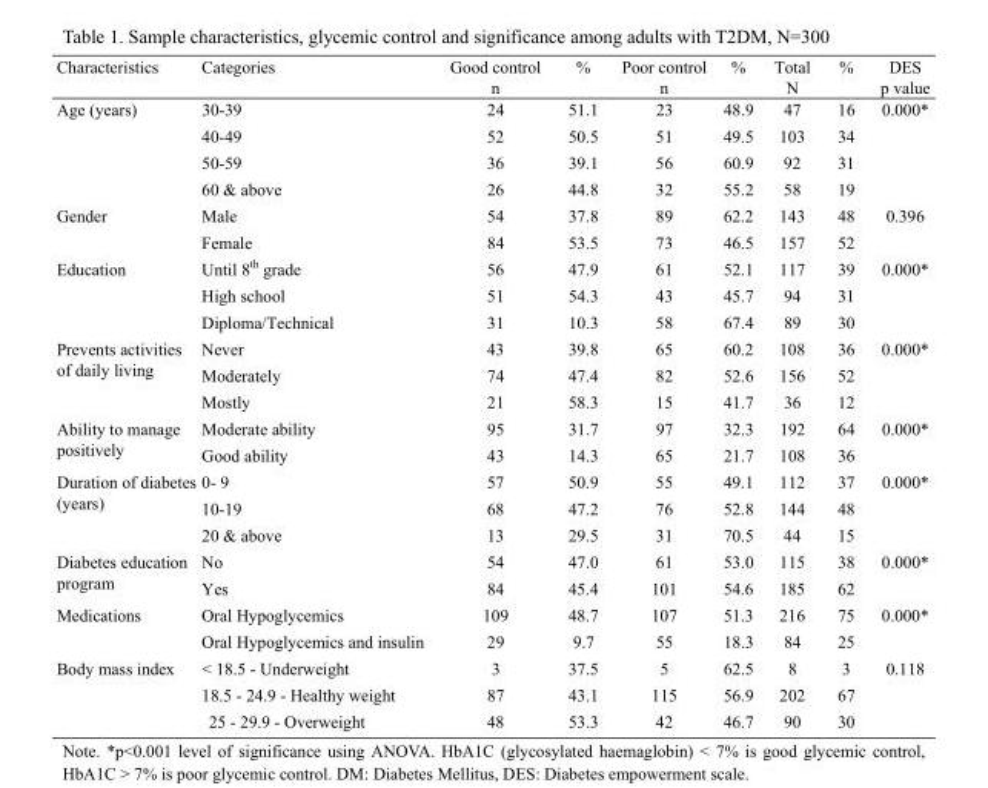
<table><thead><tr><td>Characteristics</td><td>Categories</td><td>Good control n</td><td>%</td><td>Poor control n</td><td>%</td><td>Total N</td><td>%</td><td>DES p value</td></tr></thead><tbody><tr><td rowspan="4">Age (years)</td><td>30-39</td><td>24</td><td>51.1</td><td>23</td><td>48.9</td><td>47</td><td>16</td><td rowspan="4">0.000*</td></tr><tr><td>40-49</td><td>52</td><td>50.5</td><td>51</td><td>49.5</td><td>103</td><td>34</td></tr><tr><td>50-59</td><td>36</td><td>39.1</td><td>56</td><td>60.9</td><td>92</td><td>31</td></tr><tr><td>60 &amp; above</td><td>26</td><td>44.8</td><td>32</td><td>55.2</td><td>58</td><td>19</td></tr><tr><td rowspan="2">Gender</td><td>Male</td><td>54</td><td>37.8</td><td>89</td><td>62.2</td><td>143</td><td>48</td><td rowspan="2">0.396</td></tr><tr><td>Female</td><td>84</td><td>53.5</td><td>73</td><td>46.5</td><td>157</td><td>52</td></tr><tr><td rowspan="3">Education</td><td>Until 8<sup>th</sup> grade</td><td>56</td><td>47.9</td><td>61</td><td>52.1</td><td>117</td><td>39</td><td rowspan="3">0.000*</td></tr><tr><td>High school</td><td>51</td><td>54.3</td><td>43</td><td>45.7</td><td>94</td><td>31</td></tr><tr><td>Diploma/Technical</td><td>31</td><td>10.3</td><td>58</td><td>67.4</td><td>89</td><td>30</td></tr><tr><td rowspan="3">Prevents activities of daily living</td><td>Never</td><td>43</td><td>39.8</td><td>65</td><td>60.2</td><td>108</td><td>36</td><td rowspan="3">0.000*</td></tr><tr><td>Moderately</td><td>74</td><td>47.4</td><td>82</td><td>52.6</td><td>156</td><td>52</td></tr><tr><td>Mostly</td><td>21</td><td>58.3</td><td>15</td><td>41.7</td><td>36</td><td>12</td></tr><tr><td rowspan="2">Ability to manage positively</td><td>Moderate ability</td><td>95</td><td>31.7</td><td>97</td><td>32.3</td><td>192</td><td>64</td><td rowspan="2">0.000*</td></tr><tr><td>Good ability</td><td>43</td><td>14.3</td><td>65</td><td>21.7</td><td>108</td><td>36</td></tr><tr><td rowspan="3">Duration of diabetes (years)</td><td>0- 9</td><td>57</td><td>50.9</td><td>55</td><td>49.1</td><td>112</td><td>37</td><td rowspan="3">0.000*</td></tr><tr><td>10-19</td><td>68</td><td>47.2</td><td>76</td><td>52.8</td><td>144</td><td>48</td></tr><tr><td>20 &amp; above</td><td>13</td><td>29.5</td><td>31</td><td>70.5</td><td>44</td><td>15</td></tr><tr><td rowspan="2">Diabetes education program</td><td>No</td><td>54</td><td>47.0</td><td>61</td><td>53.0</td><td>115</td><td>38</td><td rowspan="2">0.000*</td></tr><tr><td>Yes</td><td>84</td><td>45.4</td><td>101</td><td>54.6</td><td>185</td><td>62</td></tr><tr><td rowspan="2">Medications</td><td>Oral Hypoglycemics</td><td>109</td><td>48.7</td><td>107</td><td>51.3</td><td>216</td><td>75</td><td rowspan="2">0.000*</td></tr><tr><td>Oral Hypoglycemics and insulin</td><td>29</td><td>9.7</td><td>55</td><td>18.3</td><td>84</td><td>25</td></tr><tr><td rowspan="3">Body mass index</td><td>&lt; 18.5 - Underweight</td><td>3</td><td>37.5</td><td>5</td><td>62.5</td><td>8</td><td>3</td><td rowspan="3">0.118</td></tr><tr><td>18.5 - 24.9 - Healthy weight</td><td>87</td><td>43.1</td><td>115</td><td>56.9</td><td>202</td><td>67</td></tr><tr><td>25 - 29.9 - Overweight</td><td>48</td><td>53.3</td><td>42</td><td>46.7</td><td>90</td><td>30</td></tr></tbody></table>